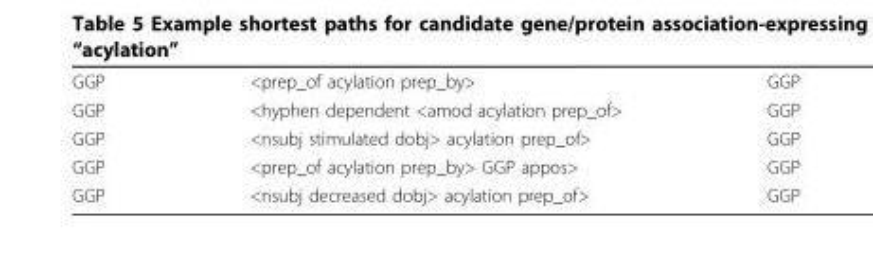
<table><tbody><tr><td>GGP</td><td>&lt;prep_of acylation prep_by&gt;</td><td>GGP</td></tr><tr><td>GGP</td><td>&lt;hyphen dependent &lt;amod acylation prep_of&gt;</td><td>GGP</td></tr><tr><td>GGP</td><td>&lt;nsubj stimulated dobj&gt; acylation prep_of&gt;</td><td>GGP</td></tr><tr><td>GGP</td><td>&lt;prep_of acylation prep_by&gt; GGP appos&gt;</td><td>GGP</td></tr><tr><td>GGP</td><td>&lt;nsubj decreased dobj&gt; acylation prep_of&gt;</td><td>GGP</td></tr></tbody></table>